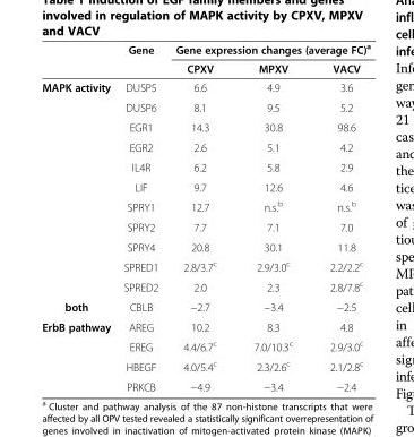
<table><thead><tr><td rowspan="2"></td><td rowspan="2">Gene</td><td colspan="3">Gene expression changes (average FC)<sup>a</sup></td></tr><tr><td>CPXV</td><td>MPXV</td><td>VACV</td></tr></thead><tbody><tr><td rowspan="11">MAPK activity</td><td>DUSP5</td><td>6.6</td><td>4.9</td><td>3.6</td></tr><tr><td>DUSP6</td><td>8.1</td><td>9.5</td><td>5.2</td></tr><tr><td>EGR1</td><td>14.3</td><td>30.8</td><td>98.6</td></tr><tr><td>EGR2</td><td>2.6</td><td>5.1</td><td>4.2</td></tr><tr><td>IL4R</td><td>6.2</td><td>5.8</td><td>2.9</td></tr><tr><td>LIF</td><td>9.7</td><td>12.6</td><td>4.6</td></tr><tr><td>SPRY1</td><td>12.7</td><td>n.s.<sup>b</sup></td><td>n.s.<sup>b</sup></td></tr><tr><td>SPRY2</td><td>7.7</td><td>7.1</td><td>7.0</td></tr><tr><td>SPRY4</td><td>20.8</td><td>30.1</td><td>11.8</td></tr><tr><td>SPRED1</td><td>2.8/3.7<sup>c</sup></td><td>2.9/3.0<sup>c</sup></td><td>2.2/2.2<sup>c</sup></td></tr><tr><td>SPRED2</td><td>2.0</td><td>2.3</td><td>2.8/7.8<sup>c</sup></td></tr><tr><td>both</td><td>CBLB</td><td>−2.7</td><td>−3.4</td><td>−2.5</td></tr><tr><td rowspan="4">ErbB pathway</td><td>AREG</td><td>10.2</td><td>8.3</td><td>4.8</td></tr><tr><td>EREG</td><td>4.4/6.7<sup>c</sup></td><td>7.0/10.3<sup>c</sup></td><td>2.9/3.0<sup>c</sup></td></tr><tr><td>HBEGF</td><td>4.0/5.4<sup>c</sup></td><td>2.3/2.6<sup>c</sup></td><td>2.1/2.8<sup>c</sup></td></tr><tr><td>PRKCB</td><td>−4.9</td><td>−3.4</td><td>−2.4</td></tr></tbody></table>